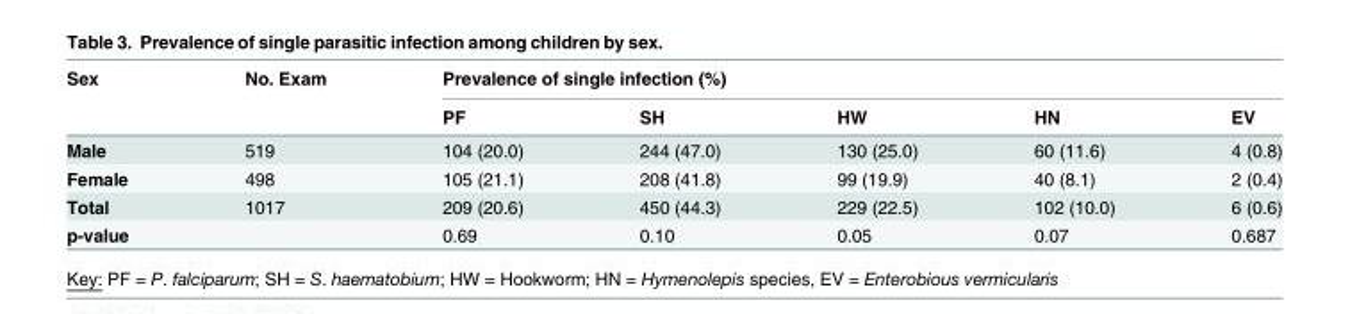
<table><thead><tr><td rowspan="2">Sex</td><td rowspan="2">No. Exam</td><td colspan="5">Prevalence of single infection (%)</td></tr><tr><td>PF</td><td>SH</td><td>HW</td><td>HN</td><td>EV</td></tr></thead><tbody><tr><td>Male</td><td>519</td><td>104 (20.0)</td><td>244 (47.0)</td><td>130 (25.0)</td><td>60 (11.6)</td><td>4 (0.8)</td></tr><tr><td>Female</td><td>498</td><td>105 (21.1)</td><td>208 (41.8)</td><td>99 (19.9)</td><td>40 (8.1)</td><td>2 (0.4)</td></tr><tr><td>Total</td><td>1017</td><td>209 (20.6)</td><td>450 (44.3)</td><td>229 (22.5)</td><td>102 (10.0)</td><td>6 (0.6)</td></tr><tr><td>p-value</td><td></td><td>0.69</td><td>0.10</td><td>0.05</td><td>0.07</td><td>0.687</td></tr></tbody></table>